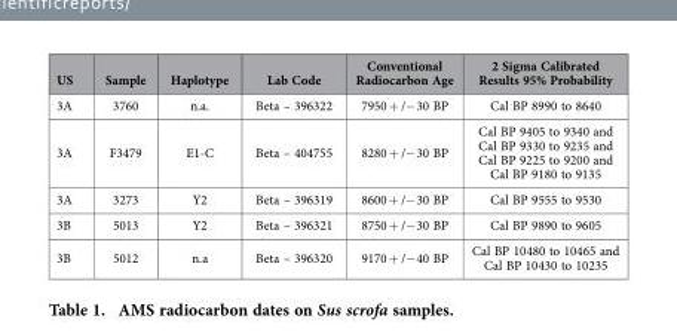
<table><thead><tr><td>US</td><td>Sample</td><td>Haplotype</td><td>Lab Code</td><td>Conventional Radiocarbon Age</td><td>2 Sigma Calibrated Results 95% Probability</td></tr></thead><tbody><tr><td>3A</td><td>3760</td><td>n.a.</td><td>Beta – 396322</td><td>7950 + /− 30 BP</td><td>Cal BP 8990 to 8640</td></tr><tr><td>3A</td><td>F3479</td><td>E1-C</td><td>Beta – 404755</td><td>8280 + /− 30 BP</td><td>Cal BP 9405 to 9340 and Cal BP 9330 to 9235 and Cal BP 9225 to 9200 and Cal BP 9180 to 9135</td></tr><tr><td>3A</td><td>3273</td><td>Y2</td><td>Beta – 396319</td><td>8600 + /− 30 BP</td><td>Cal BP 9555 to 9530</td></tr><tr><td>3B</td><td>5013</td><td>Y2</td><td>Beta – 396321</td><td>8750 + /− 30 BP</td><td>Cal BP 9890 to 9605</td></tr><tr><td>3B</td><td>5012</td><td>n.a</td><td>Beta – 396320</td><td>9170 + /− 40 BP</td><td>Cal BP 10480 to 10465 and Cal BP 10430 to 10235</td></tr></tbody></table>